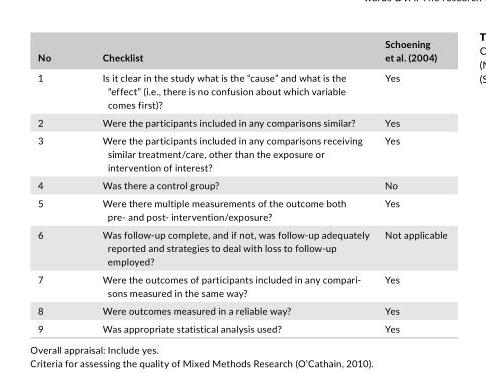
<table><thead><tr><td>No</td><td>Checklist</td><td>Schoening et al. (2004)</td></tr></thead><tbody><tr><td>1</td><td>Is it clear in the study what is the “cause” and what is the “effect” (i.e., there is no confusion about which variable comes first)?</td><td>Yes</td></tr><tr><td>2</td><td>Were the participants included in any comparisons similar?</td><td>Yes</td></tr><tr><td>3</td><td>Were the participants included in any comparisons receiving similar treatment/care, other than the exposure or intervention of interest?</td><td>Yes</td></tr><tr><td>4</td><td>Was there a control group?</td><td>No</td></tr><tr><td>5</td><td>Were there multiple measurements of the outcome both pre- and post- intervention/exposure?</td><td>Yes</td></tr><tr><td>6</td><td>Was follow- up complete, and if not, was follow- up adequately reported and strategies to deal with loss to follow- up employed?</td><td>Not applicable</td></tr><tr><td>7</td><td>Were the outcomes of participants included in any compari- sons measured in the same way?</td><td>Yes</td></tr><tr><td>8</td><td>Were outcomes measured in a reliable way?</td><td>Yes</td></tr><tr><td>9</td><td>Was appropriate statistical analysis used?</td><td>Yes</td></tr></tbody></table>